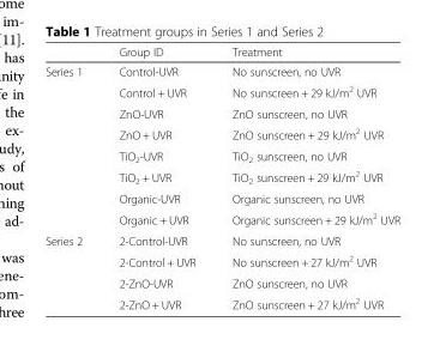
<table><thead><tr><td></td><td>Group ID</td><td>Treatment</td></tr></thead><tbody><tr><td rowspan="8">Series 1</td><td>Control-UVR</td><td>No sunscreen, no UVR</td></tr><tr><td>Control + UVR</td><td>No sunscreen + 29 kJ/m<sup>2</sup> UVR</td></tr><tr><td>ZnO-UVR</td><td>ZnO sunscreen, no UVR</td></tr><tr><td>ZnO + UVR</td><td>ZnO sunscreen + 29 kJ/m<sup>2</sup> UVR</td></tr><tr><td>TiO<sub>2</sub>-UVR</td><td>TiO<sub>2</sub> sunscreen, no UVR</td></tr><tr><td>TiO<sub>2</sub> + UVR</td><td>TiO<sub>2</sub> sunscreen + 29 kJ/m<sup>2</sup> UVR</td></tr><tr><td>Organic-UVR</td><td>Organic sunscreen, no UVR</td></tr><tr><td>Organic + UVR</td><td>Organic sunscreen + 29 kJ/m<sup>2</sup> UVR</td></tr><tr><td rowspan="4">Series 2</td><td>2-Control-UVR</td><td>No sunscreen, no UVR</td></tr><tr><td>2-Control + UVR</td><td>No sunscreen + 27 kJ/m<sup>2</sup> UVR</td></tr><tr><td>2-ZnO-UVR</td><td>ZnO sunscreen, no UVR</td></tr><tr><td>2-ZnO + UVR</td><td>ZnO sunscreen + 27 kJ/m<sup>2</sup> UVR</td></tr></tbody></table>